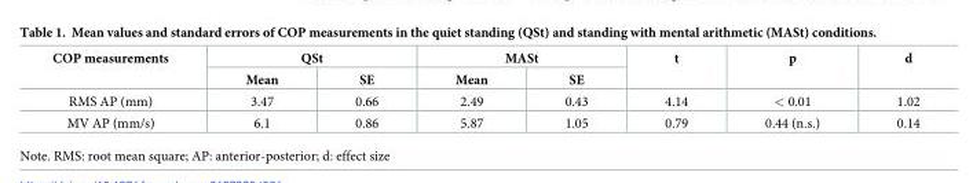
<table><thead><tr><td rowspan="2">COP measurements</td><td colspan="2">QSt</td><td colspan="2">MASt</td><td rowspan="2">t</td><td rowspan="2">p</td><td rowspan="2">d</td></tr><tr><td>Mean</td><td>SE</td><td>Mean</td><td>SE</td></tr></thead><tbody><tr><td>RMS AP (mm)</td><td>3.47</td><td>0.66</td><td>2.49</td><td>0.43</td><td>4.14</td><td>&lt; 0.01</td><td>1.02</td></tr><tr><td>MV AP (mm/s)</td><td>6.1</td><td>0.86</td><td>5.87</td><td>1.05</td><td>0.79</td><td>0.44 (n.s.)</td><td>0.14</td></tr></tbody></table>